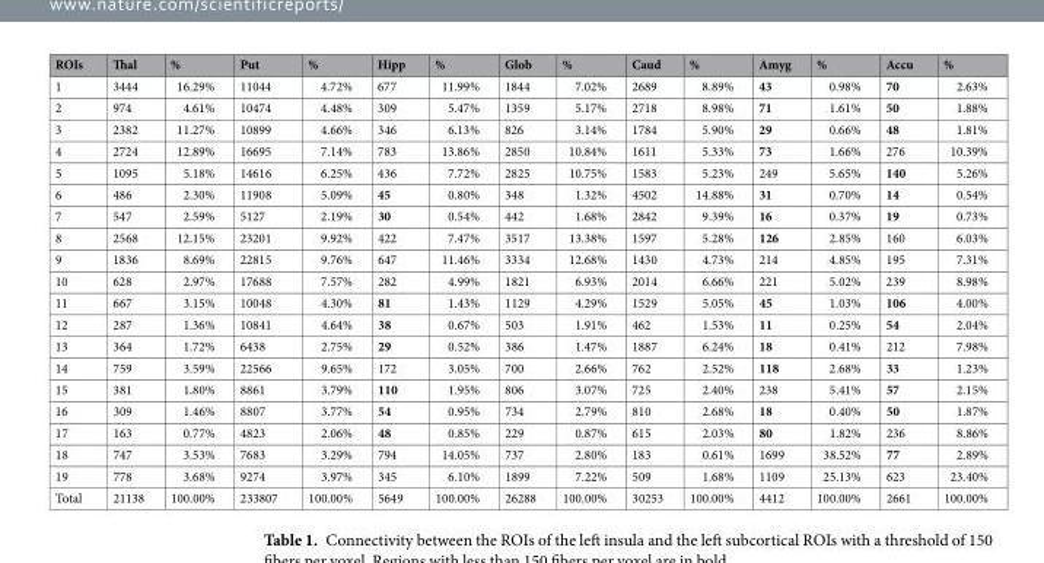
<table><thead><tr><td>ROIs</td><td>Thal</td><td>%</td><td>Put</td><td>%</td><td>Hipp</td><td>%</td><td>Glob</td><td>%</td><td>Caud</td><td>%</td><td>Amyg</td><td>%</td><td>Accu</td><td>%</td></tr></thead><tbody><tr><td>1</td><td>3444</td><td>16.29%</td><td>11044</td><td>4.72%</td><td>677</td><td>11.99%</td><td>1844</td><td>7.02%</td><td>2689</td><td>8.89%</td><td>43</td><td>0.98%</td><td>70</td><td>2.63%</td></tr><tr><td>2</td><td>974</td><td>4.61%</td><td>10474</td><td>4.48%</td><td>309</td><td>5.47%</td><td>1359</td><td>5.17%</td><td>2718</td><td>8.98%</td><td>71</td><td>1.61%</td><td>50</td><td>1.88%</td></tr><tr><td>3</td><td>2382</td><td>11.27%</td><td>10899</td><td>4.66%</td><td>346</td><td>6.13%</td><td>826</td><td>3.14%</td><td>1784</td><td>5.90%</td><td>29</td><td>0.66%</td><td>48</td><td>1.81%</td></tr><tr><td>4</td><td>2724</td><td>12.89%</td><td>16695</td><td>7.14%</td><td>783</td><td>13.86%</td><td>2850</td><td>10.84%</td><td>1611</td><td>5.33%</td><td>73</td><td>1.66%</td><td>276</td><td>10.39%</td></tr><tr><td>5</td><td>1095</td><td>5.18%</td><td>14616</td><td>6.25%</td><td>436</td><td>7.72%</td><td>2825</td><td>10.75%</td><td>1583</td><td>5.23%</td><td>249</td><td>5.65%</td><td>140</td><td>5.26%</td></tr><tr><td>6</td><td>486</td><td>2.30%</td><td>11908</td><td>5.09%</td><td>45</td><td>0.80%</td><td>348</td><td>1.32%</td><td>4502</td><td>14.88%</td><td>31</td><td>0.70%</td><td>14</td><td>0.54%</td></tr><tr><td>7</td><td>547</td><td>2.59%</td><td>5127</td><td>2.19%</td><td>30</td><td>0.54%</td><td>442</td><td>1.68%</td><td>2842</td><td>9.39%</td><td>16</td><td>0.37%</td><td>19</td><td>0.73%</td></tr><tr><td>8</td><td>2568</td><td>12.15%</td><td>23201</td><td>9.92%</td><td>422</td><td>7.47%</td><td>3517</td><td>13.38%</td><td>1597</td><td>5.28%</td><td>126</td><td>2.85%</td><td>160</td><td>6.03%</td></tr><tr><td>9</td><td>1836</td><td>8.69%</td><td>22815</td><td>9.76%</td><td>647</td><td>11.46%</td><td>3334</td><td>12.68%</td><td>1430</td><td>4.73%</td><td>214</td><td>4.85%</td><td>195</td><td>7.31%</td></tr><tr><td>10</td><td>628</td><td>2.97%</td><td>17688</td><td>7.57%</td><td>282</td><td>4.99%</td><td>1821</td><td>6.93%</td><td>2014</td><td>6.66%</td><td>221</td><td>5.02%</td><td>239</td><td>8.98%</td></tr><tr><td>11</td><td>667</td><td>3.15%</td><td>10048</td><td>4.30%</td><td>81</td><td>1.43%</td><td>1129</td><td>4.29%</td><td>1529</td><td>5.05%</td><td>45</td><td>1.03%</td><td>106</td><td>4.00%</td></tr><tr><td>12</td><td>287</td><td>1.36%</td><td>10841</td><td>4.64%</td><td>38</td><td>0.67%</td><td>503</td><td>1.91%</td><td>462</td><td>1.53%</td><td>11</td><td>0.25%</td><td>54</td><td>2.04%</td></tr><tr><td>13</td><td>364</td><td>1.72%</td><td>6438</td><td>2.75%</td><td>29</td><td>0.52%</td><td>386</td><td>1.47%</td><td>1887</td><td>6.24%</td><td>18</td><td>0.41%</td><td>212</td><td>7.98%</td></tr><tr><td>14</td><td>759</td><td>3.59%</td><td>22566</td><td>9.65%</td><td>172</td><td>3.05%</td><td>700</td><td>2.66%</td><td>762</td><td>2.52%</td><td>118</td><td>2.68%</td><td>33</td><td>1.23%</td></tr><tr><td>15</td><td>381</td><td>1.80%</td><td>8861</td><td>3.79%</td><td>110</td><td>1.95%</td><td>806</td><td>3.07%</td><td>725</td><td>2.40%</td><td>238</td><td>5.41%</td><td>57</td><td>2.15%</td></tr><tr><td>16</td><td>309</td><td>1.46%</td><td>8807</td><td>3.77%</td><td>54</td><td>0.95%</td><td>734</td><td>2.79%</td><td>810</td><td>2.68%</td><td>18</td><td>0.40%</td><td>50</td><td>1.87%</td></tr><tr><td>17</td><td>163</td><td>0.77%</td><td>4823</td><td>2.06%</td><td>48</td><td>0.85%</td><td>229</td><td>0.87%</td><td>615</td><td>2.03%</td><td>80</td><td>1.82%</td><td>236</td><td>8.86%</td></tr><tr><td>18</td><td>747</td><td>3.53%</td><td>7683</td><td>3.29%</td><td>794</td><td>14.05%</td><td>737</td><td>2.80%</td><td>183</td><td>0.61%</td><td>1699</td><td>38.52%</td><td>77</td><td>2.89%</td></tr><tr><td>19</td><td>778</td><td>3.68%</td><td>9274</td><td>3.97%</td><td>345</td><td>6.10%</td><td>1899</td><td>7.22%</td><td>509</td><td>1.68%</td><td>1109</td><td>25.13%</td><td>623</td><td>23.40%</td></tr><tr><td>Total</td><td>21138</td><td>100.00%</td><td>233807</td><td>100.00%</td><td>5649</td><td>100.00%</td><td>26288</td><td>100.00%</td><td>30253</td><td>100.00%</td><td>4412</td><td>100.00%</td><td>2661</td><td>100.00%</td></tr></tbody></table>